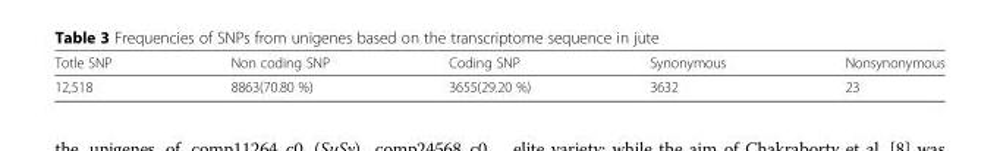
<table><thead><tr><td>Totle SNP</td><td>Non coding SNP</td><td>Coding SNP</td><td>Synonymous</td><td>Nonsynonymous</td></tr></thead><tbody><tr><td>12,518</td><td>8863(70.80 %)</td><td>3655(29.20 %)</td><td>3632</td><td>23</td></tr></tbody></table>